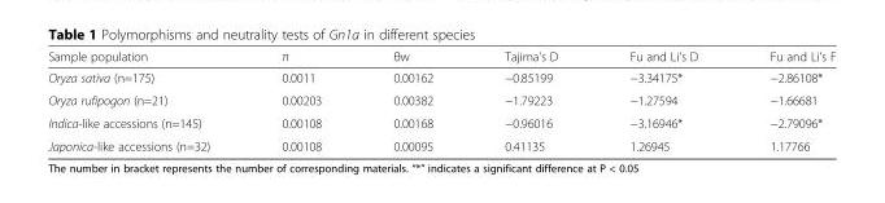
<table><thead><tr><td>Sample population</td><td>π</td><td>θw</td><td>Tajima&#x27;s D</td><td>Fu and Li&#x27;s D</td><td>Fu and Li&#x27;s F</td></tr></thead><tbody><tr><td>Oryza sativa (n=175)</td><td>0.0011</td><td>0.00162</td><td>−0.85199</td><td>−3.34175*</td><td>−2.86108*</td></tr><tr><td>Oryza rufipogon (n=21)</td><td>0.00203</td><td>0.00382</td><td>−1.79223</td><td>−1.27594</td><td>−1.66681</td></tr><tr><td>Indica-like accessions (n=145)</td><td>0.00108</td><td>0.00168</td><td>−0.96016</td><td>−3.16946*</td><td>−2.79096*</td></tr><tr><td>Japonica-like accessions (n=32)</td><td>0.00108</td><td>0.00095</td><td>0.41135</td><td>1.26945</td><td>1.17766</td></tr></tbody></table>